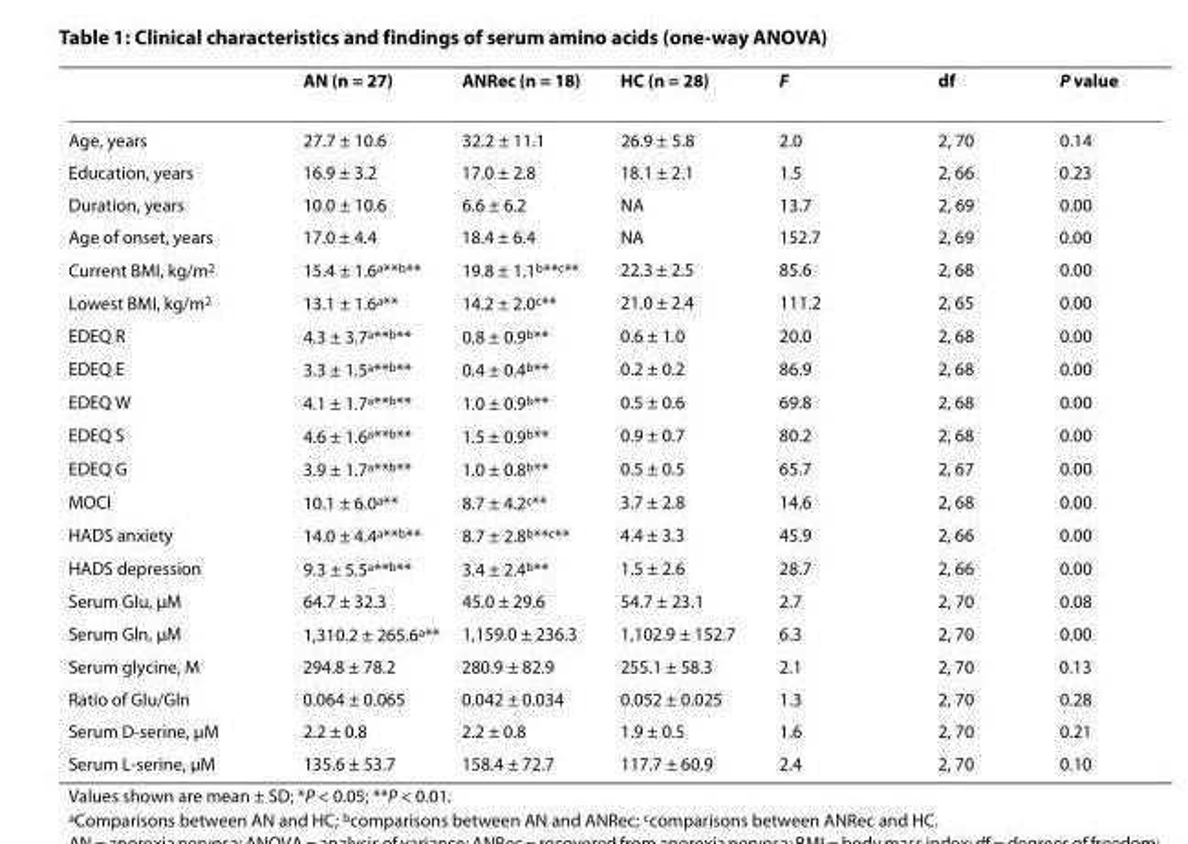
<table><thead><tr><td></td><td>AN (n = 27)</td><td>ANRec (n = 18)</td><td>HC (n = 28)</td><td>F</td><td>df</td><td>P value</td></tr></thead><tbody><tr><td>Age, years</td><td>27.7 ± 10.6</td><td>32.2 ± 11.1</td><td>26.9 ± 5.8</td><td>2.0</td><td>2, 70</td><td>0.14</td></tr><tr><td>Education, years</td><td>16.9 ± 3.2</td><td>17.0 ± 2.8</td><td>18.1 ± 2.1</td><td>1.5</td><td>2, 66</td><td>0.23</td></tr><tr><td>Duration, years</td><td>10.0 ± 10.6</td><td>6.6 ± 6.2</td><td>NA</td><td>13.7</td><td>2, 69</td><td>0.00</td></tr><tr><td>Age of onset, years</td><td>17.0 ± 4.4</td><td>18.4 ± 6.4</td><td>NA</td><td>152.7</td><td>2, 69</td><td>0.00</td></tr><tr><td>Current BMI, kg/m<sup>2</sup></td><td>15.4 ± 1.6<sup>a</sup>**<sup>b</sup>**</td><td>19.8 ± 1.1<sup>b</sup>**<sup>c</sup>**</td><td>22.3 ± 2.5</td><td>85.6</td><td>2, 68</td><td>0.00</td></tr><tr><td>Lowest BMI, kg/m<sup>2</sup></td><td>13.1 ± 1.6<sup>a</sup>**</td><td>14.2 ± 2.0<sup>c</sup>**</td><td>21.0 ± 2.4</td><td>111.2</td><td>2, 65</td><td>0.00</td></tr><tr><td>EDEQ R</td><td>4.3 ± 3.7<sup>a</sup>**<sup>b</sup>**</td><td>0.8 ± 0.9<sup>b</sup>**</td><td>0.6 ± 1.0</td><td>20.0</td><td>2, 68</td><td>0.00</td></tr><tr><td>EDEQ E</td><td>3.3 ± 1.5<sup>a</sup>**<sup>b</sup>**</td><td>0.4 ± 0.4<sup>b</sup>**</td><td>0.2 ± 0.2</td><td>86.9</td><td>2, 68</td><td>0.00</td></tr><tr><td>EDEQ W</td><td>4.1 ± 1.7<sup>a</sup>**<sup>b</sup>**</td><td>1.0 ± 0.9<sup>b</sup>**</td><td>0.5 ± 0.6</td><td>69.8</td><td>2, 68</td><td>0.00</td></tr><tr><td>EDEQ S</td><td>4.6 ± 1.6<sup>a</sup>**<sup>b</sup>**</td><td>1.5 ± 0.9<sup>b</sup>**</td><td>0.9 ± 0.7</td><td>80.2</td><td>2, 68</td><td>0.00</td></tr><tr><td>EDEQ G</td><td>3.9 ± 1.7<sup>a</sup>**<sup>b</sup>**</td><td>1.0 ± 0.8<sup>b</sup>**</td><td>0.5 ± 0.5</td><td>65.7</td><td>2, 67</td><td>0.00</td></tr><tr><td>MOCI</td><td>10.1 ± 6.0<sup>a</sup>**</td><td>8.7 ± 4.2<sup>c</sup>**</td><td>3.7 ± 2.8</td><td>14.6</td><td>2, 68</td><td>0.00</td></tr><tr><td>HADS anxiety</td><td>14.0 ± 4.4<sup>a</sup>**<sup>b</sup>**</td><td>8.7 ± 2.8<sup>b</sup>**<sup>c</sup>**</td><td>4.4 ± 3.3</td><td>45.9</td><td>2, 66</td><td>0.00</td></tr><tr><td>HADS depression</td><td>9.3 ± 5.5<sup>a</sup>**<sup>b</sup>**</td><td>3.4 ± 2.4<sup>b</sup>**</td><td>1.5 ± 2.6</td><td>28.7</td><td>2, 66</td><td>0.00</td></tr><tr><td>Serum Glu, μM</td><td>64.7 ± 32.3</td><td>45.0 ± 29.6</td><td>54.7 ± 23.1</td><td>2.7</td><td>2, 70</td><td>0.08</td></tr><tr><td>Serum Gln, μM</td><td>1,310.2 ± 265.6<sup>a</sup>**</td><td>1,159.0 ± 236.3</td><td>1,102.9 ± 152.7</td><td>6.3</td><td>2, 70</td><td>0.00</td></tr><tr><td>Serum glycine, M</td><td>294.8 ± 78.2</td><td>280.9 ± 82.9</td><td>255.1 ± 58.3</td><td>2.1</td><td>2, 70</td><td>0.13</td></tr><tr><td>Ratio of Glu/Gln</td><td>0.064 ± 0.065</td><td>0.042 ± 0.034</td><td>0.052 ± 0.025</td><td>1.3</td><td>2, 70</td><td>0.28</td></tr><tr><td>Serum D-serine, μM</td><td>2.2 ± 0.8</td><td>2.2 ± 0.8</td><td>1.9 ± 0.5</td><td>1.6</td><td>2, 70</td><td>0.21</td></tr><tr><td>Serum L-serine, μM</td><td>135.6 ± 53.7</td><td>158.4 ± 72.7</td><td>117.7 ± 60.9</td><td>2.4</td><td>2, 70</td><td>0.10</td></tr></tbody></table>